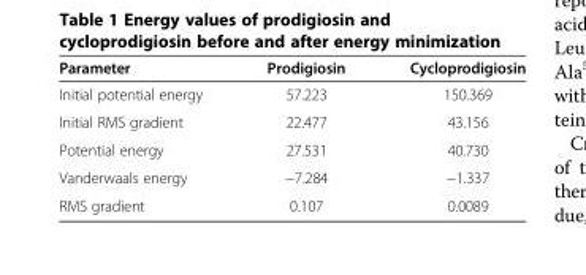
<table><thead><tr><td>Parameter</td><td>Prodigiosin</td><td>Cycloprodigiosin</td></tr></thead><tbody><tr><td>Initial potential energy</td><td>57.223</td><td>150.369</td></tr><tr><td>Initial RMS gradient</td><td>22.477</td><td>43.156</td></tr><tr><td>Potential energy</td><td>27.531</td><td>40.730</td></tr><tr><td>Vanderwaals energy</td><td>−7.284</td><td>−1.337</td></tr><tr><td>RMS gradient</td><td>0.107</td><td>0.0089</td></tr></tbody></table>